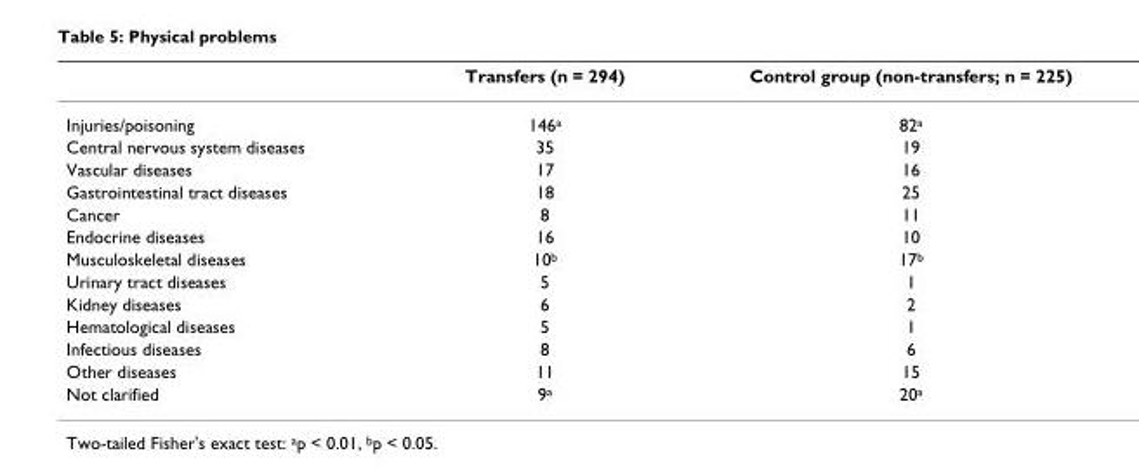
<table><thead><tr><td></td><td>Transfers (n = 294)</td><td>Control group (non-transfers; n = 225)</td></tr></thead><tbody><tr><td>Injuries/poisoning</td><td>146<sup>a</sup></td><td>82<sup>a</sup></td></tr><tr><td>Central nervous system diseases</td><td>35</td><td>19</td></tr><tr><td>Vascular diseases</td><td>17</td><td>16</td></tr><tr><td>Gastrointestinal tract diseases</td><td>18</td><td>25</td></tr><tr><td>Cancer</td><td>8</td><td>11</td></tr><tr><td>Endocrine diseases</td><td>16</td><td>10</td></tr><tr><td>Musculoskeletal diseases</td><td>10<sup>b</sup></td><td>17<sup>b</sup></td></tr><tr><td>Urinary tract diseases</td><td>5</td><td>1</td></tr><tr><td>Kidney diseases</td><td>6</td><td>2</td></tr><tr><td>Hematological diseases</td><td>5</td><td>1</td></tr><tr><td>Infectious diseases</td><td>8</td><td>6</td></tr><tr><td>Other diseases</td><td>11</td><td>15</td></tr><tr><td>Not clarified</td><td>9<sup>a</sup></td><td>20<sup>a</sup></td></tr></tbody></table>